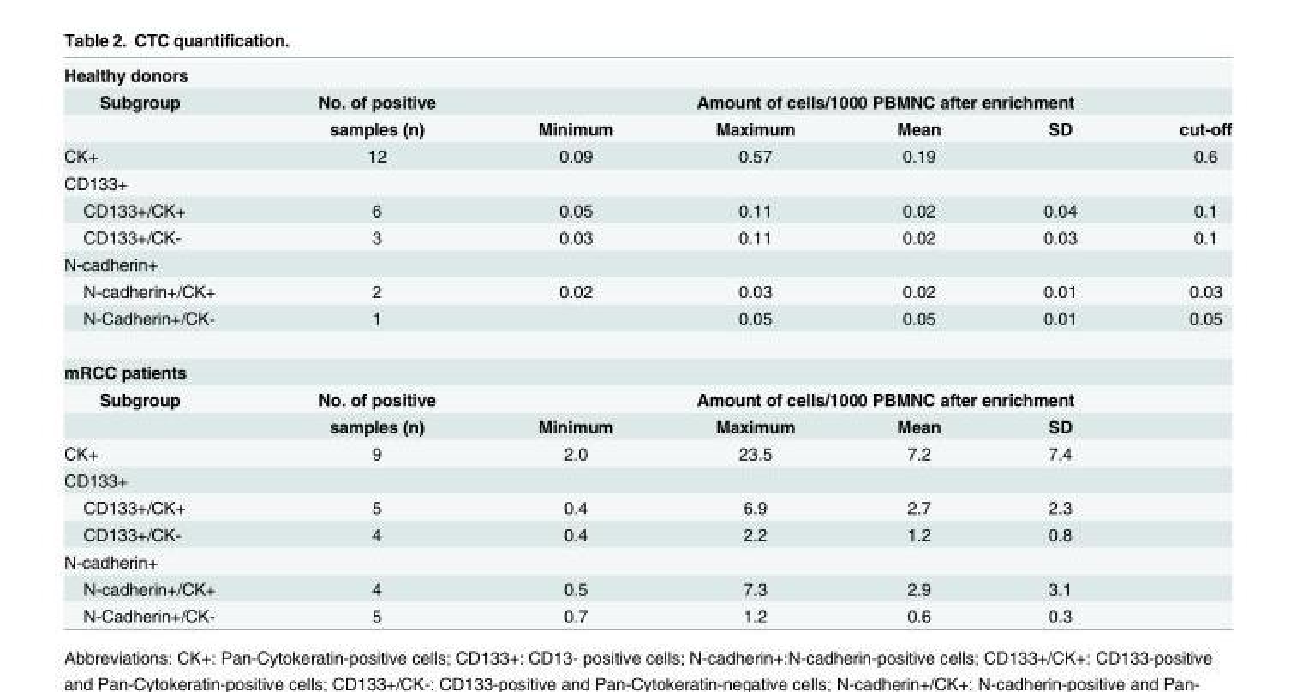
<table><tbody><tr><td colspan="7">Healthy donors</td></tr><tr><td rowspan="2">Subgroup</td><td>No. of positive</td><td colspan="5">Amount of cells/1000 PBMNC after enrichment</td></tr><tr><td>samples (n)</td><td>Minimum</td><td>Maximum</td><td>Mean</td><td>SD</td><td>cut-off</td></tr><tr><td>CK+</td><td>12</td><td>0.09</td><td>0.57</td><td>0.19</td><td></td><td>0.6</td></tr><tr><td colspan="7">CD133+</td></tr><tr><td>CD133+/CK+</td><td>6</td><td>0.05</td><td>0.11</td><td>0.02</td><td>0.04</td><td>0.1</td></tr><tr><td>CD133+/CK-</td><td>3</td><td>0.03</td><td>0.11</td><td>0.02</td><td>0.03</td><td>0.1</td></tr><tr><td colspan="7">N-cadherin+</td></tr><tr><td>N-cadherin+/CK+</td><td>2</td><td>0.02</td><td>0.03</td><td>0.02</td><td>0.01</td><td>0.03</td></tr><tr><td>N-Cadherin+/CK-</td><td>1</td><td></td><td>0.05</td><td>0.05</td><td>0.01</td><td>0.05</td></tr><tr><td colspan="7">mRCC patients</td></tr><tr><td rowspan="2">Subgroup</td><td>No. of positive</td><td colspan="5">Amount of cells/1000 PBMNC after enrichment</td></tr><tr><td>samples (n)</td><td>Minimum</td><td>Maximum</td><td>Mean</td><td>SD</td><td></td></tr><tr><td>CK+</td><td>9</td><td>2.0</td><td>23.5</td><td>7.2</td><td>7.4</td><td></td></tr><tr><td colspan="7">CD133+</td></tr><tr><td>CD133+/CK+</td><td>5</td><td>0.4</td><td>6.9</td><td>2.7</td><td>2.3</td><td></td></tr><tr><td>CD133+/CK-</td><td>4</td><td>0.4</td><td>2.2</td><td>1.2</td><td>0.8</td><td></td></tr><tr><td colspan="7">N-cadherin+</td></tr><tr><td>N-cadherin+/CK+</td><td>4</td><td>0.5</td><td>7.3</td><td>2.9</td><td>3.1</td><td></td></tr><tr><td>N-Cadherin+/CK-</td><td>5</td><td>0.7</td><td>1.2</td><td>0.6</td><td>0.3</td><td></td></tr></tbody></table>